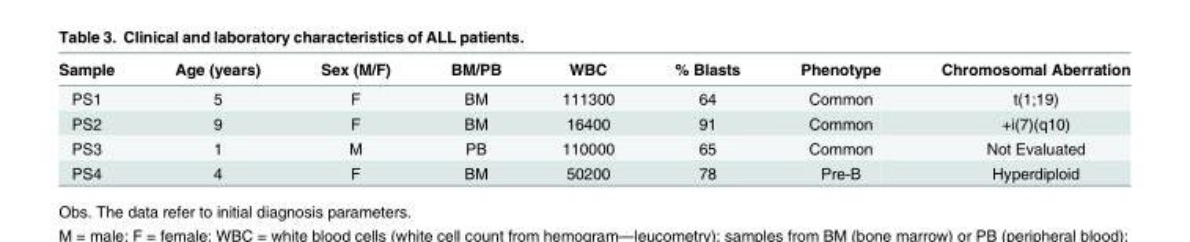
<table><thead><tr><td>Sample</td><td>Age (years)</td><td>Sex (M/F)</td><td>BM/PB</td><td>WBC</td><td>% Blasts</td><td>Phenotype</td><td>Chromosomal Aberration</td></tr></thead><tbody><tr><td>PS1</td><td>5</td><td>F</td><td>BM</td><td>111300</td><td>64</td><td>Common</td><td>t(1;19)</td></tr><tr><td>PS2</td><td>9</td><td>F</td><td>BM</td><td>16400</td><td>91</td><td>Common</td><td>+i(7)(q10)</td></tr><tr><td>PS3</td><td>1</td><td>M</td><td>PB</td><td>110000</td><td>65</td><td>Common</td><td>Not Evaluated</td></tr><tr><td>PS4</td><td>4</td><td>F</td><td>BM</td><td>50200</td><td>78</td><td>Pre-B</td><td>Hyperdiploid</td></tr></tbody></table>